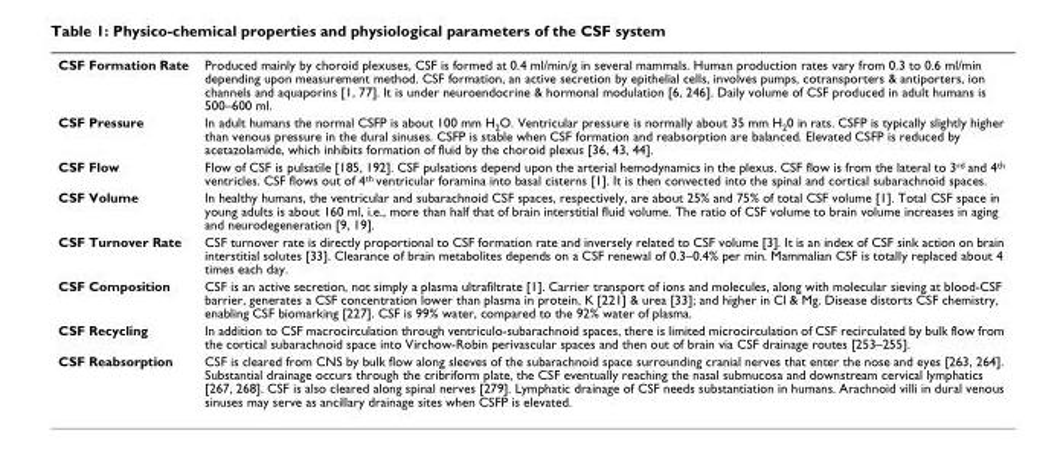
<table><tbody><tr><td>CSF Formation Rate</td><td>Produced mainly by choroid plexuses, CSF is formed at 0.4 ml/min/g in several mammals. Human production rates vary from 0.3 to 0.6 ml/min depending upon measurement method. CSF formation, an active secretion by epithelial cells, involves pumps, cotransporters &amp; antiporters, ion channels and aquaporins [1, 77]. It is under neuroendocrine &amp; hormonal modulation [6, 246]. Daily volume of CSF produced in adult humans is 500–600 ml.</td></tr><tr><td>CSF Pressure</td><td>In adult humans the normal CSFP is about 100 mm H<sub>2</sub>O. Ventricular pressure is normally about 35 mm H<sub>2</sub>0 in rats. CSFP is typically slightly higher than venous pressure in the dural sinuses. CSFP is stable when CSF formation and reabsorption are balanced. Elevated CSFP is reduced by acetazolamide, which inhibits formation of fluid by the choroid plexus [36, 43, 44].</td></tr><tr><td>CSF Flow</td><td>Flow of CSF is pulsatile [185, 192]. CSF pulsations depend upon the arterial hemodynamics in the plexus. CSF flow is from the lateral to 3<sup>rd</sup> and 4<sup>th</sup> ventricles. CSF flows out of 4<sup>th</sup> ventricular foramina into basal cisterns [1]. It is then convected into the spinal and cortical subarachnoid spaces.</td></tr><tr><td>CSF Volume</td><td>In healthy humans, the ventricular and subarachnoid CSF spaces, respectively, are about 25% and 75% of total CSF volume [1]. Total CSF space in young adults is about 160 ml, i.e., more than half that of brain interstitial fluid volume. The ratio of CSF volume to brain volume increases in aging and neurodegeneration [9, 19].</td></tr><tr><td>CSF Turnover Rate</td><td>CSF turnover rate is directly proportional to CSF formation rate and inversely related to CSF volume [3]. It is an index of CSF sink action on brain interstitial solutes [33]. Clearance of brain metabolites depends on a CSF renewal of 0.3–0.4% per min. Mammalian CSF is totally replaced about 4 times each day.</td></tr><tr><td>CSF Composition</td><td>CSF is an active secretion, not simply a plasma ultrafiltrate [1]. Carrier transport of ions and molecules, along with molecular sieving at blood-CSF barrier, generates a CSF concentration lower than plasma in protein, K [221] &amp; urea [33]; and higher in Cl &amp; Mg. Disease distorts CSF chemistry, enabling CSF biomarking [227]. CSF is 99% water, compared to the 92% water of plasma.</td></tr><tr><td>CSF Recycling</td><td>In addition to CSF macrocirculation through ventriculo-subarachnoid spaces, there is limited microcirculation of CSF recirculated by bulk flow from the cortical subarachnoid space into Virchow-Robin perivascular spaces and then out of brain via CSF drainage routes [253–255].</td></tr><tr><td>CSF Reabsorption</td><td>CSF is cleared from CNS by bulk flow along sleeves of the subarachnoid space surrounding cranial nerves that enter the nose and eyes [263, 264]. Substantial drainage occurs through the cribriform plate, the CSF eventually reaching the nasal submucosa and downstream cervical lymphatics [267, 268]. CSF is also cleared along spinal nerves [279]. Lymphatic drainage of CSF needs substantiation in humans. Arachnoid villi in dural venous sinuses may serve as ancillary drainage sites when CSFP is elevated.</td></tr></tbody></table>